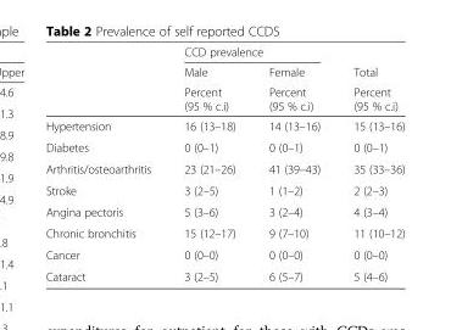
<table><thead><tr><td rowspan="3"></td><td colspan="2">CCD prevalence</td><td rowspan="3">Total Percent (95 % c.i)</td></tr><tr><td rowspan="2">Male Percent (95 % c.i)</td><td rowspan="2">Female Percent (95 % c.i)</td></tr><tr></tr></thead><tbody><tr><td>Hypertension</td><td>16 (13–18)</td><td>14 (13–16)</td><td>15 (13–16)</td></tr><tr><td>Diabetes</td><td>0 (0–1)</td><td>0 (0–1)</td><td>0 (0–1)</td></tr><tr><td>Arthritis/osteoarthritis</td><td>23 (21–26)</td><td>41 (39–43)</td><td>35 (33–36)</td></tr><tr><td>Stroke</td><td>3 (2–5)</td><td>1 (1–2)</td><td>2 (2–3)</td></tr><tr><td>Angina pectoris</td><td>5 (3–6)</td><td>3 (2–4)</td><td>4 (3–4)</td></tr><tr><td>Chronic bronchitis</td><td>15 (12–17)</td><td>9 (7–10)</td><td>11 (10–12)</td></tr><tr><td>Cancer</td><td>0 (0–0)</td><td>0 (0–0)</td><td>0 (0–0)</td></tr><tr><td>Cataract</td><td>3 (2–5)</td><td>6 (5–7)</td><td>5 (4–6)</td></tr></tbody></table>